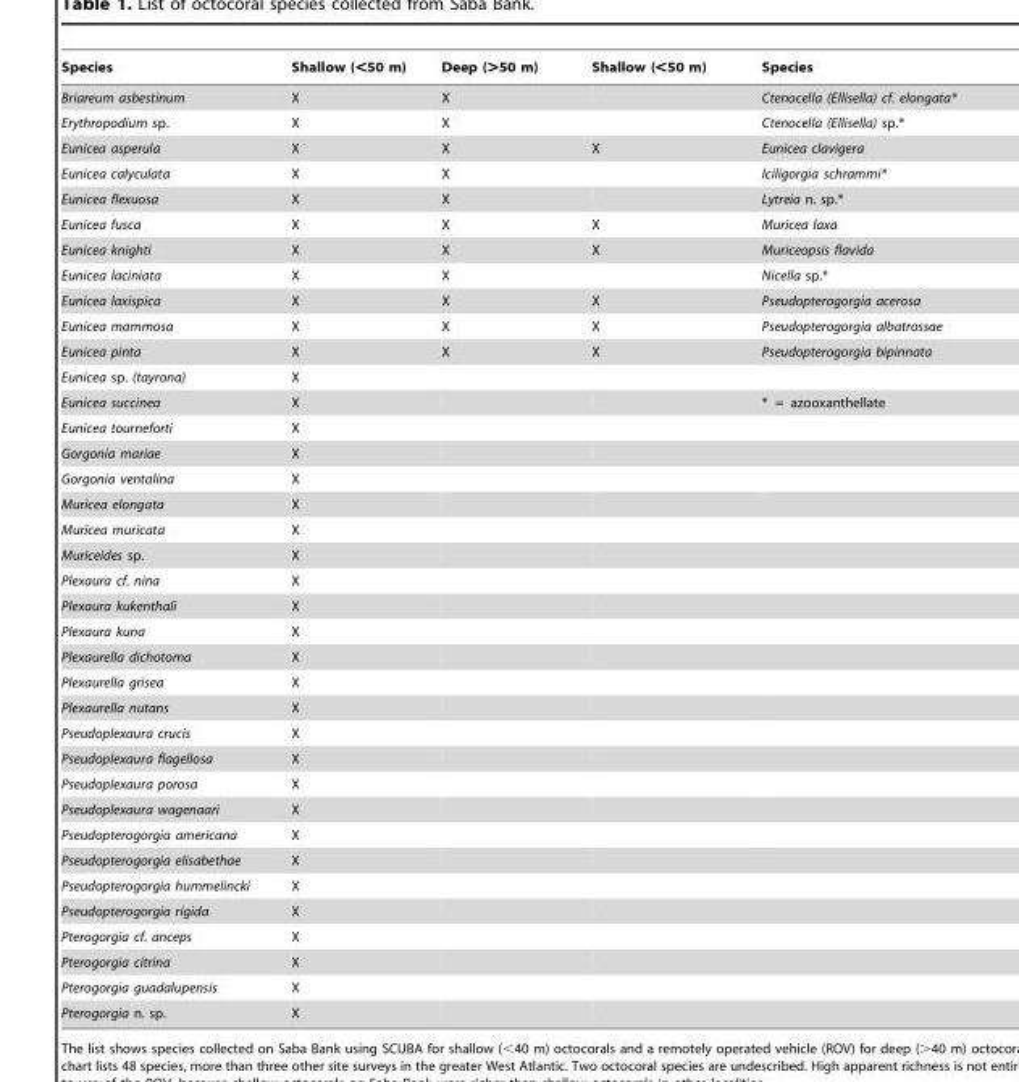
<table><thead><tr><td>Species</td><td>Shallow (&lt;50 m)</td><td>Deep (&gt;50 m)</td><td>Shallow (&lt;50 m)</td><td>Species</td></tr></thead><tbody><tr><td>Briareum asbestinum</td><td>X</td><td>X</td><td></td><td>Ctenocella (Ellisella) cf. elongata*</td></tr><tr><td>Erythropodium sp.</td><td>X</td><td>X</td><td></td><td>Ctenocella (Ellisella) sp.*</td></tr><tr><td>Eunicea asperula</td><td>X</td><td>X</td><td>X</td><td>Eunicea clavigera</td></tr><tr><td>Eunicea calyculata</td><td>X</td><td>X</td><td></td><td>Iciligorgia schrammi*</td></tr><tr><td>Eunicea flexuosa</td><td>X</td><td>X</td><td></td><td>Lytreia n. sp.*</td></tr><tr><td>Eunicea fusca</td><td>X</td><td>X</td><td>X</td><td>Muricea laxa</td></tr><tr><td>Eunicea knighti</td><td>X</td><td>X</td><td>X</td><td>Muriceopsis flavida</td></tr><tr><td>Eunicea laciniata</td><td>X</td><td>X</td><td></td><td>Nicella sp.*</td></tr><tr><td>Eunicea laxispica</td><td>X</td><td>X</td><td>X</td><td>Pseudopterogorgia acerosa</td></tr><tr><td>Eunicea mammosa</td><td>X</td><td>X</td><td>X</td><td>Pseudopterogorgia albatrossae</td></tr><tr><td>Eunicea pinta</td><td>X</td><td>X</td><td>X</td><td>Pseudopterogorgia bipinnata</td></tr><tr><td>Eunicea sp. (tayrona)</td><td>X</td><td></td><td></td><td></td></tr><tr><td>Eunicea succinea</td><td>X</td><td></td><td></td><td>* = azooxanthellate</td></tr><tr><td>Eunicea tourneforti</td><td>X</td><td></td><td></td><td></td></tr><tr><td>Gorgonia mariae</td><td>X</td><td></td><td></td><td></td></tr><tr><td>Gorgonia ventalina</td><td>X</td><td></td><td></td><td></td></tr><tr><td>Muricea elongata</td><td>X</td><td></td><td></td><td></td></tr><tr><td>Muricea muricata</td><td>X</td><td></td><td></td><td></td></tr><tr><td>Muriceides sp.</td><td>X</td><td></td><td></td><td></td></tr><tr><td>Plexaura cf. nina</td><td>X</td><td></td><td></td><td></td></tr><tr><td>Plexaura kukenthali</td><td>X</td><td></td><td></td><td></td></tr><tr><td>Plexaura kuna</td><td>X</td><td></td><td></td><td></td></tr><tr><td>Plexaurella dichotoma</td><td>X</td><td></td><td></td><td></td></tr><tr><td>Plexaurella grisea</td><td>X</td><td></td><td></td><td></td></tr><tr><td>Plexaurella nutans</td><td>X</td><td></td><td></td><td></td></tr><tr><td>Pseudoplexaura crucis</td><td>X</td><td></td><td></td><td></td></tr><tr><td>Pseudoplexaura flagellosa</td><td>X</td><td></td><td></td><td></td></tr><tr><td>Pseudoplexaura porosa</td><td>X</td><td></td><td></td><td></td></tr><tr><td>Pseudoplexaura wagenaari</td><td>X</td><td></td><td></td><td></td></tr><tr><td>Pseudopterogorgia americana</td><td>X</td><td></td><td></td><td></td></tr><tr><td>Pseudopterogorgia elisabethae</td><td>X</td><td></td><td></td><td></td></tr><tr><td>Pseudopterogorgia hummelincki</td><td>X</td><td></td><td></td><td></td></tr><tr><td>Pseudopterogorgia rigida</td><td>X</td><td></td><td></td><td></td></tr><tr><td>Pterogorgia cf. anceps</td><td>X</td><td></td><td></td><td></td></tr><tr><td>Pterogorgia citrina</td><td>X</td><td></td><td></td><td></td></tr><tr><td>Pterogorgia guadalupensis</td><td>X</td><td></td><td></td><td></td></tr><tr><td>Pterogorgia n. sp.</td><td>X</td><td></td><td></td><td></td></tr></tbody></table>